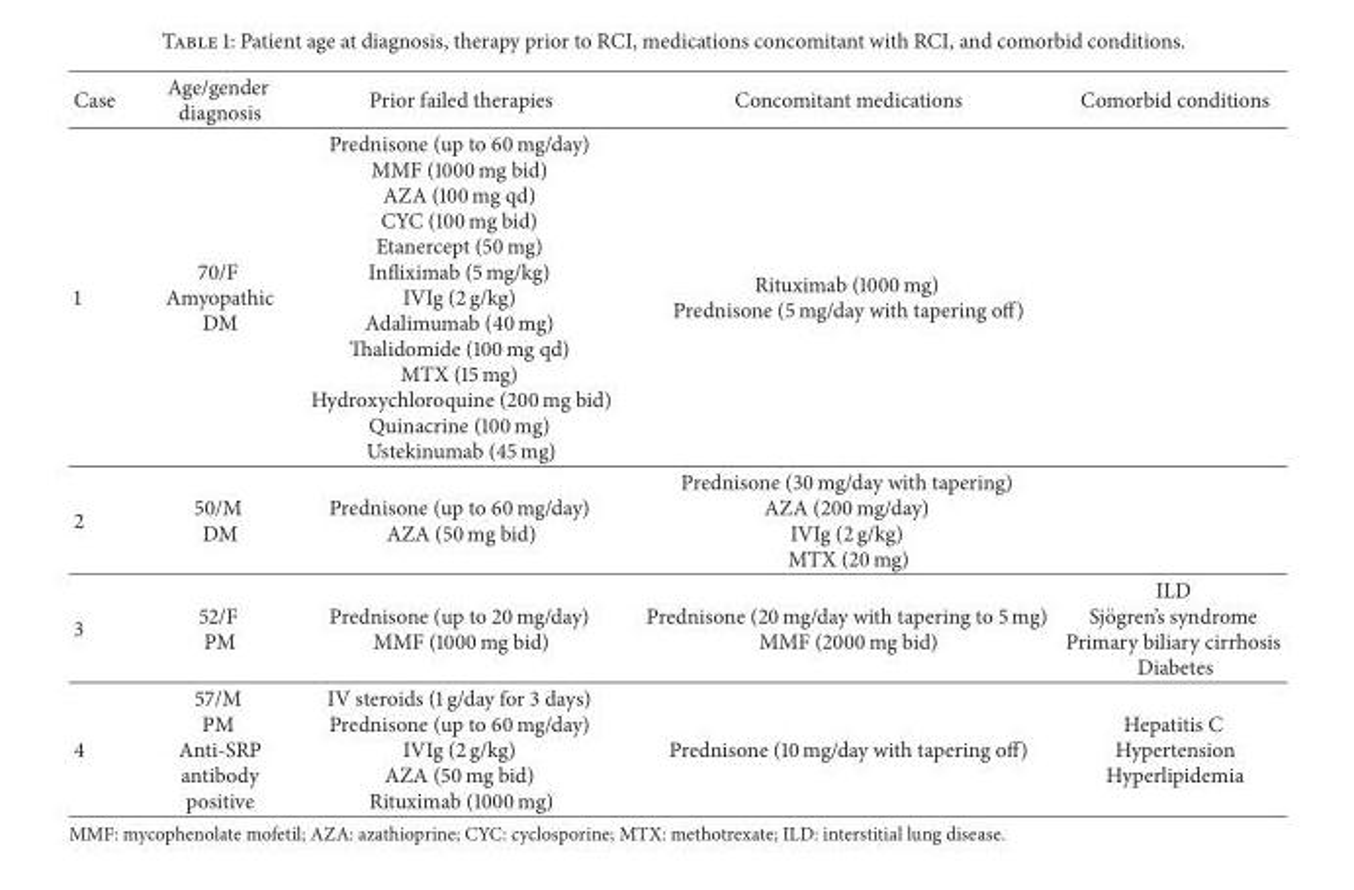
<table><thead><tr><td>Case</td><td>Age/gender diagnosis</td><td>Prior failed therapies</td><td>Concomitant medications</td><td>Comorbid conditions</td></tr></thead><tbody><tr><td>1</td><td>70/F Amyopathic DM</td><td>Prednisone (up to 60 mg/day) MMF (1000 mg bid) AZA (100 mg qd) CYC (100 mg bid) Etanercept (50 mg) Infliximab (5 mg/kg) IVIg (2 g/kg) Adalimumab (40 mg) Thalidomide (100 mg qd) MTX (15 mg) Hydroxychloroquine (200 mg bid) Quinacrine (100 mg) Ustekinumab (45 mg)</td><td>Rituximab (1000 mg) Prednisone (5 mg/day with tapering off)</td><td></td></tr><tr><td>2</td><td>50/M DM</td><td>Prednisone (up to 60 mg/day) AZA (50 mg bid)</td><td>Prednisone (30 mg/day with tapering) AZA (200 mg/day) IVIg (2 g/kg) MTX (20 mg)</td><td></td></tr><tr><td>3</td><td>52/F PM</td><td>Prednisone (up to 20 mg/day) MMF (1000 mg bid)</td><td>Prednisone (20 mg/day with tapering to 5 mg) MMF (2000 mg bid)</td><td>ILD Sj¨ogren’s syndrome Primary biliary cirrhosis Diabetes</td></tr><tr><td>4</td><td>57/M PM Anti-SRP antibody positive</td><td>IV steroids (1 g/day for 3 days) Prednisone (up to 60 mg/day) IVIg (2 g/kg) AZA (50 mg bid) Rituximab (1000 mg)</td><td>Prednisone (10 mg/day with tapering off)</td><td>Hepatitis C Hypertension Hyperlipidemia</td></tr></tbody></table>